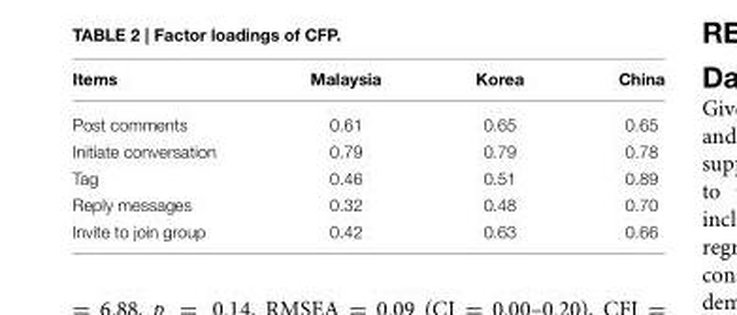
<table><thead><tr><td>Items</td><td>Malaysia</td><td>Korea</td><td>China</td></tr></thead><tbody><tr><td>Post comments</td><td>0.61</td><td>0.65</td><td>0.65</td></tr><tr><td>Initiate conversation</td><td>0.79</td><td>0.79</td><td>0.78</td></tr><tr><td>Tag</td><td>0.46</td><td>0.51</td><td>0.89</td></tr><tr><td>Reply messages</td><td>0.32</td><td>0.48</td><td>0.70</td></tr><tr><td>Invite to join group</td><td>0.42</td><td>0.63</td><td>0.66</td></tr></tbody></table>